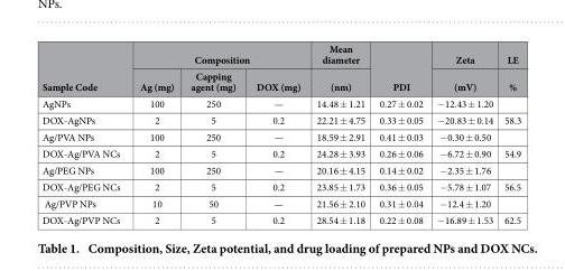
<table><thead><tr><td rowspan="2">Sample Code</td><td colspan="3">Composition</td><td rowspan="2">Mean diameter (nm)</td><td rowspan="2">PDI</td><td rowspan="2">Zeta (mV)</td><td rowspan="2">LE %</td></tr><tr><td>Ag (mg)</td><td>Capping agent (mg)</td><td>DOX (mg)</td></tr></thead><tbody><tr><td>AgNPs</td><td>100</td><td>250</td><td>—</td><td>14.48 ± 1.21</td><td>0.27 ± 0.02</td><td>− 12.43 ± 1.20</td><td></td></tr><tr><td>DOX-AgNPs</td><td>2</td><td>5</td><td>0.2</td><td>22.21 ± 4.75</td><td>0.33 ± 0.05</td><td>− 20.83 ± 0.14</td><td>58.3</td></tr><tr><td>Ag/PVA NPs</td><td>100</td><td>250</td><td>—</td><td>18.59 ± 2.91</td><td>0.41 ± 0.03</td><td>− 0.30 ± 0.50</td><td></td></tr><tr><td>DOX-Ag/PVA NCs</td><td>2</td><td>5</td><td>0.2</td><td>24.28 ± 3.93</td><td>0.26 ± 0.06</td><td>− 6.72 ± 0.90</td><td>54.9</td></tr><tr><td>Ag/PEG NPs</td><td>100</td><td>250</td><td>—</td><td>20.16 ± 4.15</td><td>0.14 ± 0.02</td><td>− 2.35 ± 1.76</td><td></td></tr><tr><td>DOX-Ag/PEG NCs</td><td>2</td><td>5</td><td>0.2</td><td>23.85 ± 1.73</td><td>0.36 ± 0.05</td><td>− 5.78 ± 1.07</td><td>56.5</td></tr><tr><td>Ag/PVP NPs</td><td>10</td><td>50</td><td>—</td><td>21.56 ± 2.10</td><td>0.31 ± 0.04</td><td>− 12.4 ± 1.20</td><td></td></tr><tr><td>DOX-Ag/PVP NCs</td><td>2</td><td>5</td><td>0.2</td><td>28.54 ± 1.18</td><td>0.22 ± 0.08</td><td>− 16.89 ± 1.53</td><td>62.5</td></tr></tbody></table>